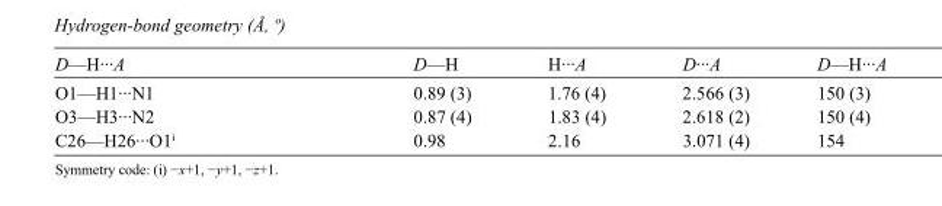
<table><tbody><tr><td>D—H···A</td><td>D—H</td><td>H···A</td><td>D···A</td><td>D—H···A</td></tr><tr><td>O1—H1···N1</td><td>0.89 (3)</td><td>1.76 (4)</td><td>2.566 (3)</td><td>150 (3)</td></tr><tr><td>O3—H3···N2</td><td>0.87 (4)</td><td>1.83 (4)</td><td>2.618 (2)</td><td>150 (4)</td></tr><tr><td>C26—H26···O1<sup>i</sup></td><td>0.98</td><td>2.16</td><td>3.071 (4)</td><td>154</td></tr></tbody></table>